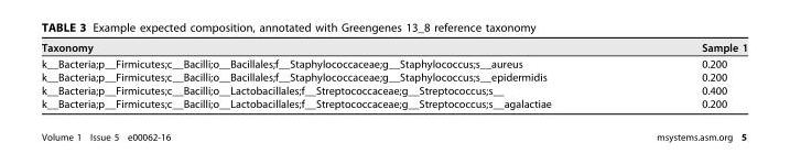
<table><thead><tr><td>Taxonomy</td><td>Sample 1</td></tr></thead><tbody><tr><td>k__Bacteria;p__Firmicutes;c__Bacilli;o__Bacillales;f__Staphylococcaceae;g__Staphylococcus;s__aureus</td><td>0.200</td></tr><tr><td>k__Bacteria;p__Firmicutes;c__Bacilli;o__Bacillales;f__Staphylococcaceae;g__Staphylococcus;s__epidermidis</td><td>0.200</td></tr><tr><td>k__Bacteria;p__Firmicutes;c__Bacilli;o__Lactobacillales;f__Streptococcaceae;g__Streptococcus;s__</td><td>0.400</td></tr><tr><td>k__Bacteria;p__Firmicutes;c__Bacilli;o__Lactobacillales;f__Streptococcaceae;g__Streptococcus;s__agalactiae</td><td>0.200</td></tr></tbody></table>